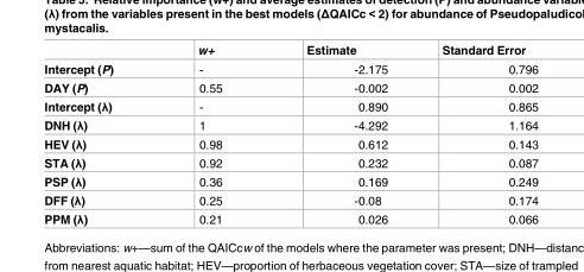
<table><thead><tr><td></td><td>w+</td><td>Estimate</td><td>Standard Error</td></tr></thead><tbody><tr><td>Intercept (P)</td><td>-</td><td>-2.175</td><td>0.796</td></tr><tr><td>DAY (P)</td><td>0.55</td><td>-0.002</td><td>0.002</td></tr><tr><td>Intercept (λ)</td><td>-</td><td>0.890</td><td>0.865</td></tr><tr><td>DNH (λ)</td><td>1</td><td>-4.292</td><td>1.164</td></tr><tr><td>HEV (λ)</td><td>0.98</td><td>0.612</td><td>0.143</td></tr><tr><td>STA (λ)</td><td>0.92</td><td>0.232</td><td>0.087</td></tr><tr><td>PSP (λ)</td><td>0.36</td><td>0.169</td><td>0.249</td></tr><tr><td>DFF (λ)</td><td>0.25</td><td>-0.08</td><td>0.174</td></tr><tr><td>PPM (λ)</td><td>0.21</td><td>0.026</td><td>0.066</td></tr></tbody></table>